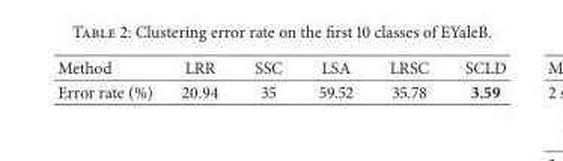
<table><thead><tr><td>Method</td><td>LRR</td><td>SSC</td><td>LSA</td><td>LRSC</td><td>SCLD</td></tr></thead><tbody><tr><td>Error rate (%)</td><td>20.94</td><td>35</td><td>59.52</td><td>35.78</td><td>3.59</td></tr></tbody></table>